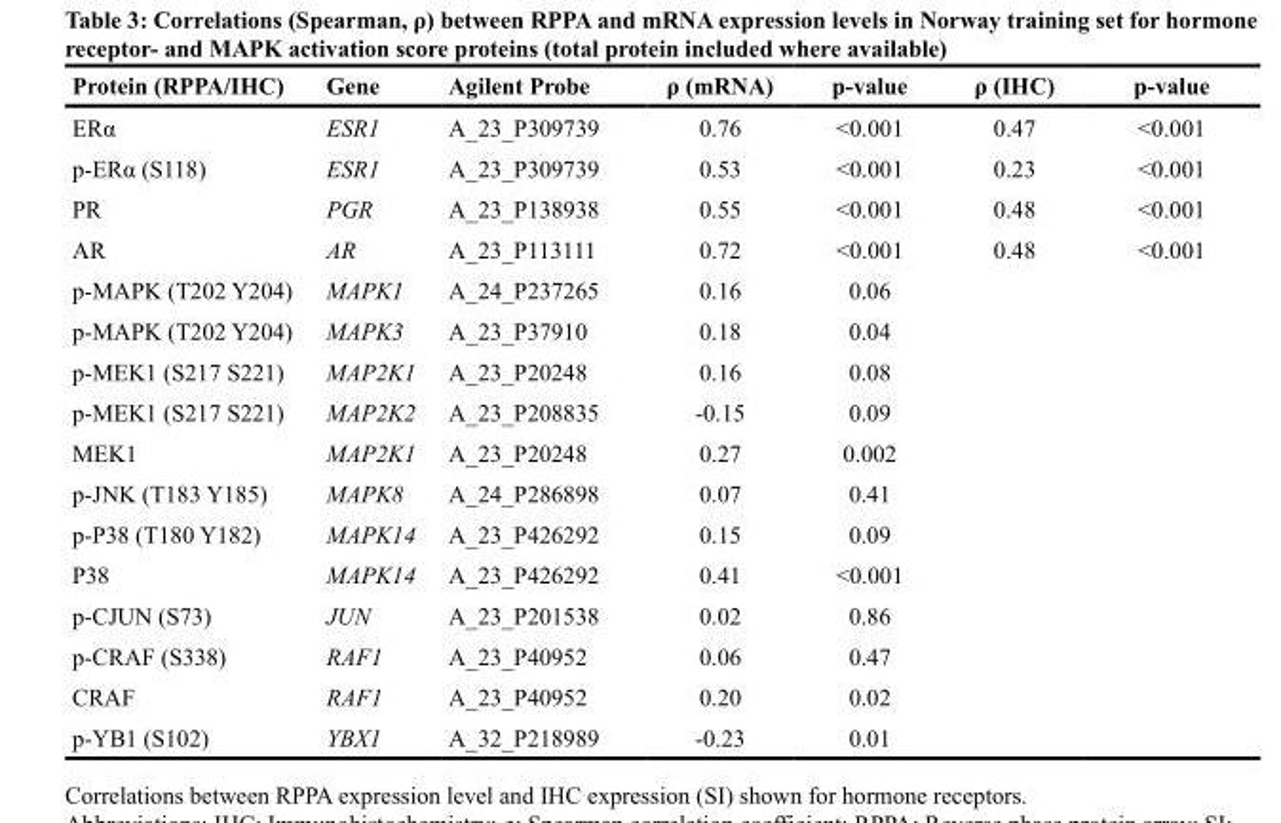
<table><thead><tr><td>Protein (RPPA/IHC)</td><td>Gene</td><td>Agilent Probe</td><td>ρ (mRNA)</td><td>p-value</td><td>ρ (IHC)</td><td>p-value</td></tr></thead><tbody><tr><td>ERα</td><td>ESR1</td><td>A_23_P309739</td><td>0.76</td><td>&lt;0.001</td><td>0.47</td><td>&lt;0.001</td></tr><tr><td>p-ERα (S118)</td><td>ESR1</td><td>A_23_P309739</td><td>0.53</td><td>&lt;0.001</td><td>0.23</td><td>&lt;0.001</td></tr><tr><td>PR</td><td>PGR</td><td>A_23_P138938</td><td>0.55</td><td>&lt;0.001</td><td>0.48</td><td>&lt;0.001</td></tr><tr><td>AR</td><td>AR</td><td>A_23_P113111</td><td>0.72</td><td>&lt;0.001</td><td>0.48</td><td>&lt;0.001</td></tr><tr><td>p-MAPK (T202 Y204)</td><td>MAPK1</td><td>A_24_P237265</td><td>0.16</td><td>0.06</td><td></td><td></td></tr><tr><td>p-MAPK (T202 Y204)</td><td>MAPK3</td><td>A_23_P37910</td><td>0.18</td><td>0.04</td><td></td><td></td></tr><tr><td>p-MEK1 (S217 S221)</td><td>MAP2K1</td><td>A_23_P20248</td><td>0.16</td><td>0.08</td><td></td><td></td></tr><tr><td>p-MEK1 (S217 S221)</td><td>MAP2K2</td><td>A_23_P208835</td><td>-0.15</td><td>0.09</td><td></td><td></td></tr><tr><td>MEK1</td><td>MAP2K1</td><td>A_23_P20248</td><td>0.27</td><td>0.002</td><td></td><td></td></tr><tr><td>p-JNK (T183 Y185)</td><td>MAPK8</td><td>A_24_P286898</td><td>0.07</td><td>0.41</td><td></td><td></td></tr><tr><td>p-P38 (T180 Y182)</td><td>MAPK14</td><td>A_23_P426292</td><td>0.15</td><td>0.09</td><td></td><td></td></tr><tr><td>P38</td><td>MAPK14</td><td>A_23_P426292</td><td>0.41</td><td>&lt;0.001</td><td></td><td></td></tr><tr><td>p-CJUN (S73)</td><td>JUN</td><td>A_23_P201538</td><td>0.02</td><td>0.86</td><td></td><td></td></tr><tr><td>p-CRAF (S338)</td><td>RAF1</td><td>A_23_P40952</td><td>0.06</td><td>0.47</td><td></td><td></td></tr><tr><td>CRAF</td><td>RAF1</td><td>A_23_P40952</td><td>0.20</td><td>0.02</td><td></td><td></td></tr><tr><td>p-YB1 (S102)</td><td>YBX1</td><td>A_32_P218989</td><td>-0.23</td><td>0.01</td><td></td><td></td></tr></tbody></table>